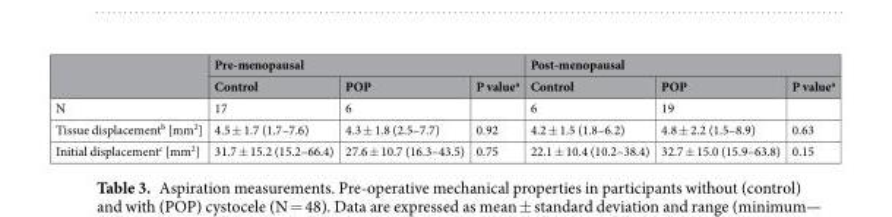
<table><thead><tr><td rowspan="2"></td><td colspan="3">Pre-menopausal</td><td colspan="3">Post-menopausal</td></tr><tr><td>Control</td><td>POP</td><td>P value<sup>a</sup></td><td>Control</td><td>POP</td><td>P value<sup>a</sup></td></tr></thead><tbody><tr><td>N</td><td>17</td><td>6</td><td></td><td>6</td><td>19</td><td></td></tr><tr><td>Tissue displacement<sup>b</sup> [mm<sup>2</sup>]</td><td>4.5 ± 1.7 (1.7–7.6)</td><td>4.3 ± 1.8 (2.5–7.7)</td><td>0.92</td><td>4.2 ± 1.5 (1.8–6.2)</td><td>4.8 ± 2.2 (1.5–8.9)</td><td>0.63</td></tr><tr><td>Initial displacement<sup>c</sup> [mm<sup>2</sup>]</td><td>31.7 ± 15.2 (15.2–66.4)</td><td>27.6 ± 10.7 (16.3–43.5)</td><td>0.75</td><td>22.1 ± 10.4 (10.2–38.4)</td><td>32.7 ± 15.0 (15.9–63.8)</td><td>0.15</td></tr></tbody></table>